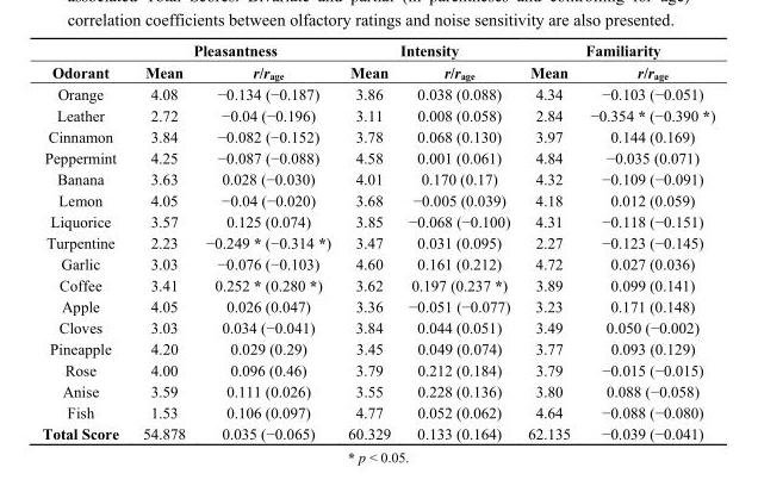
<table><thead><tr><td rowspan="2">Odorant</td><td colspan="2">Pleasantness</td><td colspan="2">Intensity</td><td colspan="2">Familiarity</td></tr><tr><td>Mean</td><td>r/r<sub>age</sub></td><td>Mean</td><td>r/r<sub>age</sub></td><td>Mean</td><td>r/r<sub>age</sub></td></tr></thead><tbody><tr><td>Orange</td><td>4.08</td><td>−0.134 (−0.187)</td><td>3.86</td><td>0.038 (0.088)</td><td>4.34</td><td>−0.103 (−0.051)</td></tr><tr><td>Leather</td><td>2.72</td><td>−0.04 (−0.196)</td><td>3.11</td><td>0.008 (0.058)</td><td>2.84</td><td>−0.354 * (−0.390 *)</td></tr><tr><td>Cinnamon</td><td>3.84</td><td>−0.082 (−0.152)</td><td>3.78</td><td>0.068 (0.130)</td><td>3.97</td><td>0.144 (0.169)</td></tr><tr><td>Peppermint</td><td>4.25</td><td>−0.087 (−0.088)</td><td>4.58</td><td>0.001 (0.061)</td><td>4.84</td><td>−0.035 (0.071)</td></tr><tr><td>Banana</td><td>3.63</td><td>0.028 (−0.030)</td><td>4.01</td><td>0.170 (0.17)</td><td>4.32</td><td>−0.109 (−0.091)</td></tr><tr><td>Lemon</td><td>4.05</td><td>−0.04 (−0.020)</td><td>3.68</td><td>−0.005 (0.039)</td><td>4.18</td><td>0.012 (0.059)</td></tr><tr><td>Liquorice</td><td>3.57</td><td>0.125 (0.074)</td><td>3.85</td><td>−0.068 (−0.100)</td><td>4.31</td><td>−0.118 (−0.151)</td></tr><tr><td>Turpentine</td><td>2.23</td><td>−0.249 * (−0.314 *)</td><td>3.47</td><td>0.031 (0.095)</td><td>2.27</td><td>−0.123 (−0.145)</td></tr><tr><td>Garlic</td><td>3.03</td><td>−0.076 (−0.103)</td><td>4.60</td><td>0.161 (0.212)</td><td>4.72</td><td>0.027 (0.036)</td></tr><tr><td>Coffee</td><td>3.41</td><td>0.252 * (0.280 *)</td><td>3.62</td><td>0.197 (0.237 *)</td><td>3.89</td><td>0.099 (0.141)</td></tr><tr><td>Apple</td><td>4.05</td><td>0.026 (0.047)</td><td>3.36</td><td>−0.051 (−0.077)</td><td>3.23</td><td>0.171 (0.148)</td></tr><tr><td>Cloves</td><td>3.03</td><td>0.034 (−0.041)</td><td>3.84</td><td>0.044 (0.051)</td><td>3.49</td><td>0.050 (−0.002)</td></tr><tr><td>Pineapple</td><td>4.20</td><td>0.029 (0.29)</td><td>3.45</td><td>0.049 (0.074)</td><td>3.77</td><td>0.093 (0.129)</td></tr><tr><td>Rose</td><td>4.00</td><td>0.096 (0.46)</td><td>3.79</td><td>0.212 (0.184)</td><td>3.79</td><td>−0.015 (−0.015)</td></tr><tr><td>Anise</td><td>3.59</td><td>0.111 (0.026)</td><td>3.55</td><td>0.228 (0.136)</td><td>3.80</td><td>0.088 (−0.058)</td></tr><tr><td>Fish</td><td>1.53</td><td>0.106 (0.097)</td><td>4.77</td><td>0.052 (0.062)</td><td>4.64</td><td>−0.088 (−0.080)</td></tr><tr><td>Total Score</td><td>54.878</td><td>0.035 (−0.065)</td><td>60.329</td><td>0.133 (0.164)</td><td>62.135</td><td>−0.039 (−0.041)</td></tr></tbody></table>